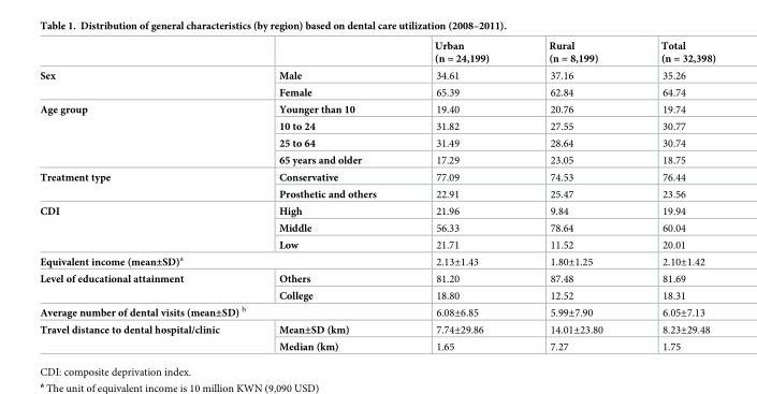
<table><thead><tr><td></td><td></td><td>Urban (n = 24,199)</td><td>Rural (n = 8,199)</td><td>Total (n = 32,398)</td></tr></thead><tbody><tr><td rowspan="2">Sex</td><td>Male</td><td>34.61</td><td>37.16</td><td>35.26</td></tr><tr><td>Female</td><td>65.39</td><td>62.84</td><td>64.74</td></tr><tr><td rowspan="4">Age group</td><td>Younger than 10</td><td>19.40</td><td>20.76</td><td>19.74</td></tr><tr><td>10 to 24</td><td>31.82</td><td>27.55</td><td>30.77</td></tr><tr><td>25 to 64</td><td>31.49</td><td>28.64</td><td>30.74</td></tr><tr><td>65 years and older</td><td>17.29</td><td>23.05</td><td>18.75</td></tr><tr><td rowspan="2">Treatment type</td><td>Conservative</td><td>77.09</td><td>74.53</td><td>76.44</td></tr><tr><td>Prosthetic and others</td><td>22.91</td><td>25.47</td><td>23.56</td></tr><tr><td rowspan="3">CDI</td><td>High</td><td>21.96</td><td>9.84</td><td>19.94</td></tr><tr><td>Middle</td><td>56.33</td><td>78.64</td><td>60.04</td></tr><tr><td>Low</td><td>21.71</td><td>11.52</td><td>20.01</td></tr><tr><td colspan="2">Equivalent income (mean±SD)<sup>a</sup></td><td>2.13±1.43</td><td>1.80±1.25</td><td>2.10±1.42</td></tr><tr><td rowspan="2">Level of educational attainment</td><td>Others</td><td>81.20</td><td>87.48</td><td>81.69</td></tr><tr><td>College</td><td>18.80</td><td>12.52</td><td>18.31</td></tr><tr><td colspan="2">Average number of dental visits (mean±SD) <sup>b</sup></td><td>6.08±6.85</td><td>5.99±7.90</td><td>6.05±7.13</td></tr><tr><td rowspan="2">Travel distance to dental hospital/clinic</td><td>Mean±SD (km)</td><td>7.74±29.86</td><td>14.01±23.80</td><td>8.23±29.48</td></tr><tr><td>Median (km)</td><td>1.65</td><td>7.27</td><td>1.75</td></tr></tbody></table>